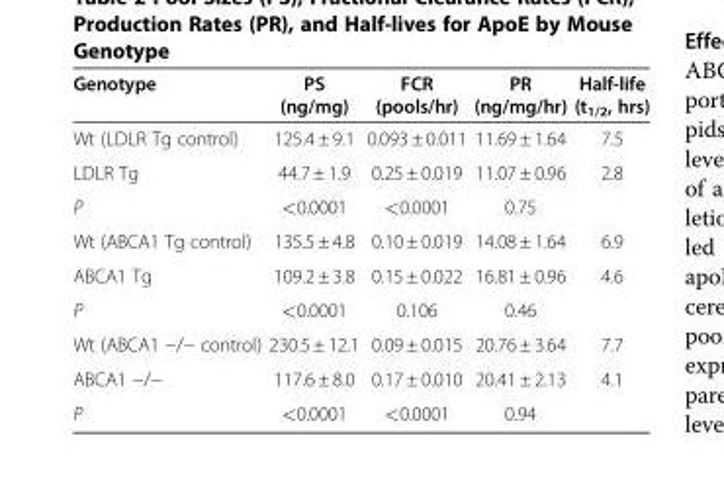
<table><thead><tr><td>Genotype</td><td>PS (ng/mg)</td><td>FCR (pools/hr)</td><td>PR (ng/mg/hr)</td><td>Half-life (t<sub>1/2</sub>, hrs)</td></tr></thead><tbody><tr><td>Wt (LDLR Tg control)</td><td>125.4 ± 9.1</td><td>0.093 ± 0.011</td><td>11.69 ± 1.64</td><td>7.5</td></tr><tr><td>LDLR Tg</td><td>44.7 ± 1.9</td><td>0.25 ± 0.019</td><td>11.07 ± 0.96</td><td>2.8</td></tr><tr><td>P</td><td>&lt;0.0001</td><td>&lt;0.0001</td><td>0.75</td><td></td></tr><tr><td>Wt (ABCA1 Tg control)</td><td>135.5 ± 4.8</td><td>0.10 ± 0.019</td><td>14.08 ± 1.64</td><td>6.9</td></tr><tr><td>ABCA1 Tg</td><td>109.2 ± 3.8</td><td>0.15 ± 0.022</td><td>16.81 ± 0.96</td><td>4.6</td></tr><tr><td>P</td><td>&lt;0.0001</td><td>0.106</td><td>0.46</td><td></td></tr><tr><td>Wt (ABCA1 −/− control)</td><td>230.5 ± 12.1</td><td>0.09 ± 0.015</td><td>20.76 ± 3.64</td><td>7.7</td></tr><tr><td>ABCA1 −/−</td><td>117.6 ± 8.0</td><td>0.17 ± 0.010</td><td>20.41 ± 2.13</td><td>4.1</td></tr><tr><td>P</td><td>&lt;0.0001</td><td>&lt;0.0001</td><td>0.94</td><td></td></tr></tbody></table>